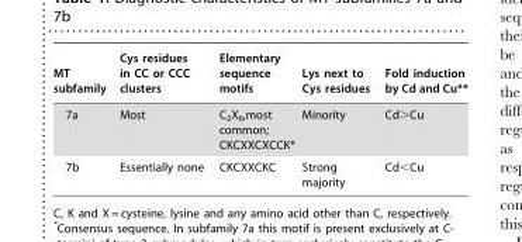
<table><thead><tr><td>MT subfamily</td><td>Cys residues in CC or CCC clusters</td><td>Elementary sequence motifs</td><td>Lys next to Cys residues</td><td>Fold induction by Cd and Cu**</td></tr></thead><tbody><tr><td>7a</td><td>Most</td><td>C<sub>2</sub>X<sub>6</sub>,most common; CKCXXCXCCK*</td><td>Minority</td><td>Cd&gt;Cu</td></tr><tr><td>7b</td><td>Essentially none</td><td>CKCXXCKC</td><td>Strong majority</td><td>Cd&lt;Cu</td></tr></tbody></table>